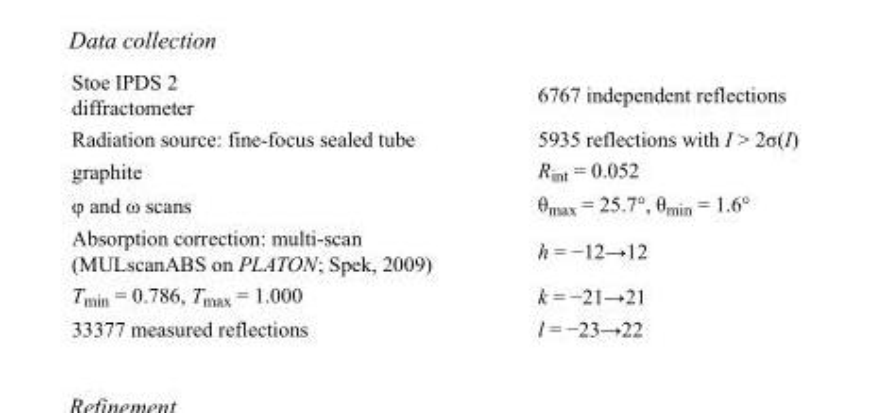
<table><tbody><tr><td>Stoe IPDS 2 diffractometer</td><td>6767 independent reflections</td></tr><tr><td>Radiation source: fine-focus sealed tube</td><td>5935 reflections with I &gt; 2σ(I)</td></tr><tr><td>graphite</td><td>R<sub>int</sub> = 0.052</td></tr><tr><td>φ and ω scans</td><td>θ<sub>max</sub> = 25.7°, θ<sub>min</sub> = 1.6°</td></tr><tr><td>Absorption correction: multi-scan (MULscanABS on PLATON; Spek, 2009)</td><td>h = −12→12</td></tr><tr><td>T<sub>min</sub> = 0.786, T<sub>max</sub> = 1.000</td><td>k = −21→21</td></tr><tr><td>33377 measured reflections</td><td>l = −23→22</td></tr></tbody></table>